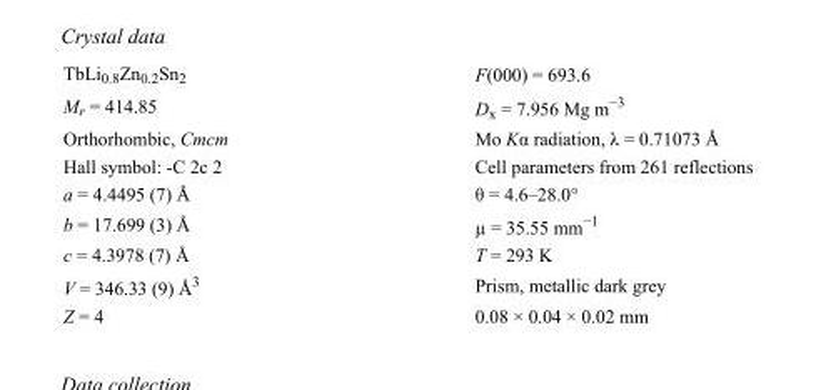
<table><tbody><tr><td>TbLi<sub>0.8</sub>Zn<sub>0.2</sub>Sn<sub>2</sub></td><td>F(000) = 693.6</td></tr><tr><td>M<sub>r</sub> = 414.85</td><td>D<sub>x</sub> = 7.956 Mg m<sup>−3</sup></td></tr><tr><td>Orthorhombic, Cmcm</td><td>Mo Kα radiation, λ = 0.71073 Å</td></tr><tr><td>Hall symbol: -C 2c 2</td><td>Cell parameters from 261 reflections</td></tr><tr><td>a = 4.4495 (7) Å</td><td>θ = 4.6–28.0°</td></tr><tr><td>b = 17.699 (3) Å</td><td>µ = 35.55 mm<sup>−1</sup></td></tr><tr><td>c = 4.3978 (7) Å</td><td>T = 293 K</td></tr><tr><td>V = 346.33 (9) Å<sup>3</sup></td><td>Prism, metallic dark grey</td></tr><tr><td>Z = 4</td><td>0.08 × 0.04 × 0.02 mm</td></tr></tbody></table>